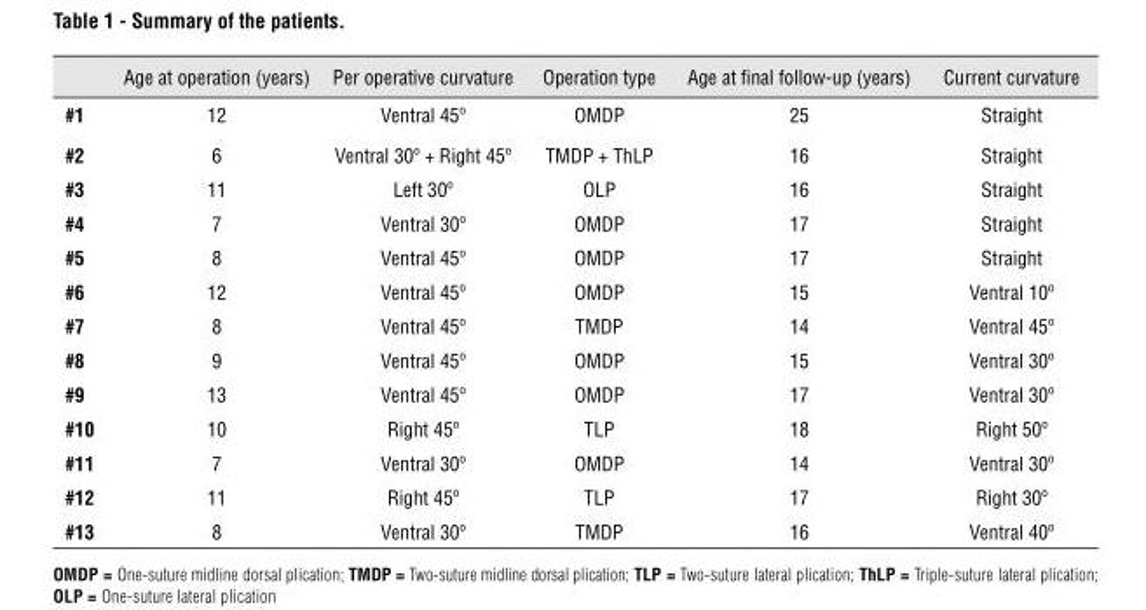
<table><thead><tr><td></td><td>Age at operation (years)</td><td>Per operative curvature</td><td>Operation type</td><td>Age at final follow-up (years)</td><td>Current curvature</td></tr></thead><tbody><tr><td>#1</td><td>12</td><td>Ventral 45º</td><td>OMDP</td><td>25</td><td>Straight</td></tr><tr><td>#2</td><td>6</td><td>Ventral 30º + Right 45º</td><td>TMDP + ThLP</td><td>16</td><td>Straight</td></tr><tr><td>#3</td><td>11</td><td>Left 30º</td><td>OLP</td><td>16</td><td>Straight</td></tr><tr><td>#4</td><td>7</td><td>Ventral 30º</td><td>OMDP</td><td>17</td><td>Straight</td></tr><tr><td>#5</td><td>8</td><td>Ventral 45º</td><td>OMDP</td><td>17</td><td>Straight</td></tr><tr><td>#6</td><td>12</td><td>Ventral 45º</td><td>OMDP</td><td>15</td><td>Ventral 10º</td></tr><tr><td>#7</td><td>8</td><td>Ventral 45º</td><td>TMDP</td><td>14</td><td>Ventral 45º</td></tr><tr><td>#8</td><td>9</td><td>Ventral 45º</td><td>OMDP</td><td>15</td><td>Ventral 30º</td></tr><tr><td>#9</td><td>13</td><td>Ventral 45º</td><td>OMDP</td><td>17</td><td>Ventral 30º</td></tr><tr><td>#10</td><td>10</td><td>Right 45º</td><td>TLP</td><td>18</td><td>Right 50º</td></tr><tr><td>#11</td><td>7</td><td>Ventral 30º</td><td>OMDP</td><td>14</td><td>Ventral 30º</td></tr><tr><td>#12</td><td>11</td><td>Right 45º</td><td>TLP</td><td>17</td><td>Right 30º</td></tr><tr><td>#13</td><td>8</td><td>Ventral 30º</td><td>TMDP</td><td>16</td><td>Ventral 40º</td></tr></tbody></table>